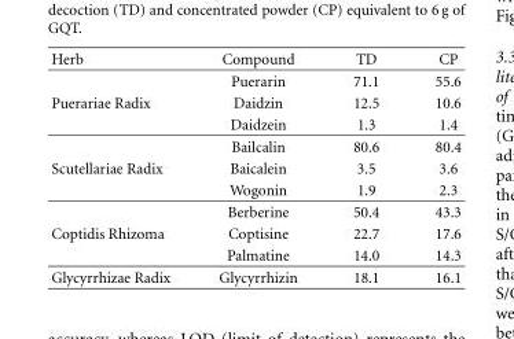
<table><thead><tr><td>Herb</td><td>Compound</td><td>TD</td><td>CP</td></tr></thead><tbody><tr><td></td><td>Puerarin</td><td>71.1</td><td>55.6</td></tr><tr><td rowspan="3">Puerariae Radix</td><td>Daidzin</td><td>12.5</td><td>10.6</td></tr><tr><td>Daidzein</td><td>1.3</td><td>1.4</td></tr><tr><td>Bailcalin</td><td>80.6</td><td>80.4</td></tr><tr><td rowspan="3">Scutellariae Radix</td><td>Baicalein</td><td>3.5</td><td>3.6</td></tr><tr><td>Wogonin</td><td>1.9</td><td>2.3</td></tr><tr><td>Berberine</td><td>50.4</td><td>43.3</td></tr><tr><td rowspan="2">Coptidis Rhizoma</td><td>Coptisine</td><td>22.7</td><td>17.6</td></tr><tr><td>Palmatine</td><td>14.0</td><td>14.3</td></tr><tr><td>Glycyrrhizae Radix</td><td>Glycyrrhizin</td><td>18.1</td><td>16.1</td></tr></tbody></table>